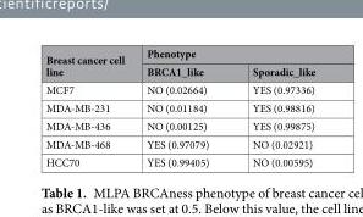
<table><thead><tr><td rowspan="2">Breast cancer cell line</td><td colspan="2">Phenotype</td></tr><tr><td>BRCA1_like</td><td>Sporadic_like</td></tr></thead><tbody><tr><td>MCF7</td><td>NO (0.02664)</td><td>YES (0.97336)</td></tr><tr><td>MDA-MB-231</td><td>NO (0.01184)</td><td>YES (0.98816)</td></tr><tr><td>MDA-MB-436</td><td>NO (0.00125)</td><td>YES (0.99875)</td></tr><tr><td>MDA-MB-468</td><td>YES (0.97079)</td><td>NO (0.02921)</td></tr><tr><td>HCC70</td><td>YES (0.99405)</td><td>NO (0.00595)</td></tr></tbody></table>